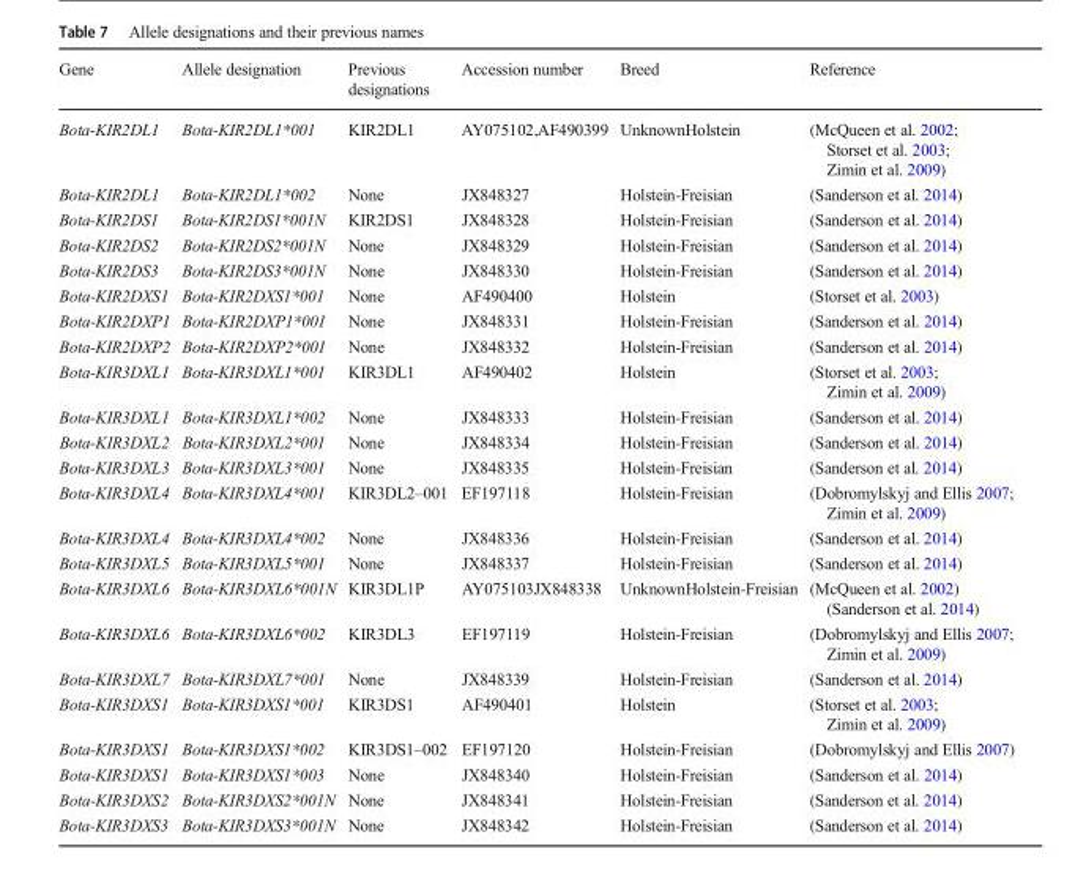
<table><thead><tr><td>Gene</td><td>Allele designation</td><td>Previous designations</td><td>Accession number</td><td>Breed</td><td>Reference</td></tr></thead><tbody><tr><td>Bota-KIR2DL1</td><td>Bota-KIR2DL1*001</td><td>KIR2DL1</td><td>AY075102,AF490399</td><td>UnknownHolstein</td><td>(McQueen et al. 2002; Storset et al. 2003; Zimin et al. 2009)</td></tr><tr><td>Bota-KIR2DL1</td><td>Bota-KIR2DL1*002</td><td>None</td><td>JX848327</td><td>Holstein-Freisian</td><td>(Sanderson et al. 2014)</td></tr><tr><td>Bota-KIR2DS1</td><td>Bota-KIR2DS1*001N</td><td>KIR2DS1</td><td>JX848328</td><td>Holstein-Freisian</td><td>(Sanderson et al. 2014)</td></tr><tr><td>Bota-KIR2DS2</td><td>Bota-KIR2DS2*001N</td><td>None</td><td>JX848329</td><td>Holstein-Freisian</td><td>(Sanderson et al. 2014)</td></tr><tr><td>Bota-KIR2DS3</td><td>Bota-KIR2DS3*001N</td><td>None</td><td>JX848330</td><td>Holstein-Freisian</td><td>(Sanderson et al. 2014)</td></tr><tr><td>Bota-KIR2DXS1</td><td>Bota-KIR2DXS1*001</td><td>None</td><td>AF490400</td><td>Holstein</td><td>(Storset et al. 2003)</td></tr><tr><td>Bota-KIR2DXP1</td><td>Bota-KIR2DXP1*001</td><td>None</td><td>JX848331</td><td>Holstein-Freisian</td><td>(Sanderson et al. 2014)</td></tr><tr><td>Bota-KIR2DXP2</td><td>Bota-KIR2DXP2*001</td><td>None</td><td>JX848332</td><td>Holstein-Freisian</td><td>(Sanderson et al. 2014)</td></tr><tr><td>Bota-KIR3DXL1</td><td>Bota-KIR3DXL1*001</td><td>KIR3DL1</td><td>AF490402</td><td>Holstein</td><td>(Storset et al. 2003; Zimin et al. 2009)</td></tr><tr><td>Bota-KIR3DXL1</td><td>Bota-KIR3DXL1*002</td><td>None</td><td>JX848333</td><td>Holstein-Freisian</td><td>(Sanderson et al. 2014)</td></tr><tr><td>Bota-KIR3DXL2</td><td>Bota-KIR3DXL2*001</td><td>None</td><td>JX848334</td><td>Holstein-Freisian</td><td>(Sanderson et al. 2014)</td></tr><tr><td>Bota-KIR3DXL3</td><td>Bota-KIR3DXL3*001</td><td>None</td><td>JX848335</td><td>Holstein-Freisian</td><td>(Sanderson et al. 2014)</td></tr><tr><td>Bota-KIR3DXL4</td><td>Bota-KIR3DXL4*001</td><td>KIR3DL2–001</td><td>EF197118</td><td>Holstein-Freisian</td><td>(Dobromylskyj and Ellis 2007; Zimin et al. 2009)</td></tr><tr><td>Bota-KIR3DXL4</td><td>Bota-KIR3DXL4*002</td><td>None</td><td>JX848336</td><td>Holstein-Freisian</td><td>(Sanderson et al. 2014)</td></tr><tr><td>Bota-KIR3DXL5</td><td>Bota-KIR3DXL5*001</td><td>None</td><td>JX848337</td><td>Holstein-Freisian</td><td>(Sanderson et al. 2014)</td></tr><tr><td>Bota-KIR3DXL6</td><td>Bota-KIR3DXL6*001N</td><td>KIR3DL1P</td><td>AY075103JX848338</td><td>UnknownHolstein-Freisian</td><td>(McQueen et al. 2002) (Sanderson et al. 2014)</td></tr><tr><td>Bota-KIR3DXL6</td><td>Bota-KIR3DXL6*002</td><td>KIR3DL3</td><td>EF197119</td><td>Holstein-Freisian</td><td>(Dobromylskyj and Ellis 2007; Zimin et al. 2009)</td></tr><tr><td>Bota-KIR3DXL7</td><td>Bota-KIR3DXL7*001</td><td>None</td><td>JX848339</td><td>Holstein-Freisian</td><td>(Sanderson et al. 2014)</td></tr><tr><td>Bota-KIR3DXS1</td><td>Bota-KIR3DXS1*001</td><td>KIR3DS1</td><td>AF490401</td><td>Holstein</td><td>(Storset et al. 2003; Zimin et al. 2009)</td></tr><tr><td>Bota-KIR3DXS1</td><td>Bota-KIR3DXS1*002</td><td>KIR3DS1–002</td><td>EF197120</td><td>Holstein-Freisian</td><td>(Dobromylskyj and Ellis 2007)</td></tr><tr><td>Bota-KIR3DXS1</td><td>Bota-KIR3DXS1*003</td><td>None</td><td>JX848340</td><td>Holstein-Freisian</td><td>(Sanderson et al. 2014)</td></tr><tr><td>Bota-KIR3DXS2</td><td>Bota-KIR3DXS2*001N</td><td>None</td><td>JX848341</td><td>Holstein-Freisian</td><td>(Sanderson et al. 2014)</td></tr><tr><td>Bota-KIR3DXS3</td><td>Bota-KIR3DXS3*001N</td><td>None</td><td>JX848342</td><td>Holstein-Freisian</td><td>(Sanderson et al. 2014)</td></tr></tbody></table>